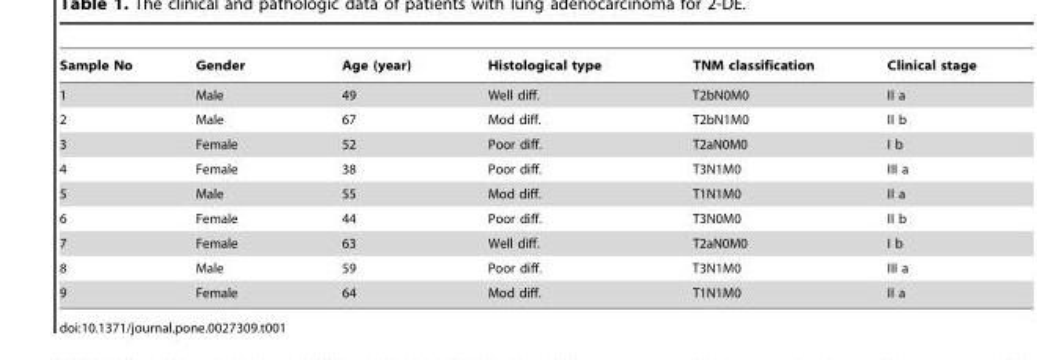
<table><thead><tr><td>Sample No</td><td>Gender</td><td>Age (year)</td><td>Histological type</td><td>TNM classification</td><td>Clinical stage</td></tr></thead><tbody><tr><td>1</td><td>Male</td><td>49</td><td>Well diff.</td><td>T2bN0M0</td><td>II a</td></tr><tr><td>2</td><td>Male</td><td>67</td><td>Mod diff.</td><td>T2bN1M0</td><td>II b</td></tr><tr><td>3</td><td>Female</td><td>52</td><td>Poor diff.</td><td>T2aN0M0</td><td>I b</td></tr><tr><td>4</td><td>Female</td><td>38</td><td>Poor diff.</td><td>T3N1M0</td><td>III a</td></tr><tr><td>5</td><td>Male</td><td>55</td><td>Mod diff.</td><td>T1N1M0</td><td>II a</td></tr><tr><td>6</td><td>Female</td><td>44</td><td>Poor diff.</td><td>T3N0M0</td><td>II b</td></tr><tr><td>7</td><td>Female</td><td>63</td><td>Well diff.</td><td>T2aN0M0</td><td>I b</td></tr><tr><td>8</td><td>Male</td><td>59</td><td>Poor diff.</td><td>T3N1M0</td><td>III a</td></tr><tr><td>9</td><td>Female</td><td>64</td><td>Mod diff.</td><td>T1N1M0</td><td>II a</td></tr></tbody></table>